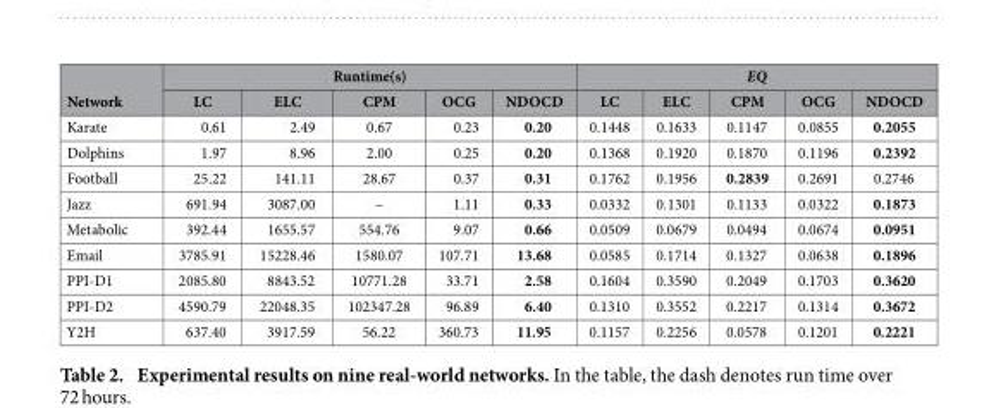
<table><thead><tr><td rowspan="2">Network</td><td colspan="5">Runtime(s)</td><td colspan="5">EQ</td></tr><tr><td>LC</td><td>ELC</td><td>CPM</td><td>OCG</td><td>NDOCD</td><td>LC</td><td>ELC</td><td>CPM</td><td>OCG</td><td>NDOCD</td></tr></thead><tbody><tr><td>Karate</td><td>0.61</td><td>2.49</td><td>0.67</td><td>0.23</td><td>0.20</td><td>0.1448</td><td>0.1633</td><td>0.1147</td><td>0.0855</td><td>0.2055</td></tr><tr><td>Dolphins</td><td>1.97</td><td>8.96</td><td>2.00</td><td>0.25</td><td>0.20</td><td>0.1368</td><td>0.1920</td><td>0.1870</td><td>0.1196</td><td>0.2392</td></tr><tr><td>Football</td><td>25.22</td><td>141.11</td><td>28.67</td><td>0.37</td><td>0.31</td><td>0.1762</td><td>0.1956</td><td>0.2839</td><td>0.2691</td><td>0.2746</td></tr><tr><td>Jazz</td><td>691.94</td><td>3087.00</td><td>–</td><td>1.11</td><td>0.33</td><td>0.0332</td><td>0.1301</td><td>0.1133</td><td>0.0322</td><td>0.1873</td></tr><tr><td>Metabolic</td><td>392.44</td><td>1655.57</td><td>554.76</td><td>9.07</td><td>0.66</td><td>0.0509</td><td>0.0679</td><td>0.0494</td><td>0.0674</td><td>0.0951</td></tr><tr><td>Email</td><td>3785.91</td><td>15228.46</td><td>1580.07</td><td>107.71</td><td>13.68</td><td>0.0585</td><td>0.1714</td><td>0.1327</td><td>0.0638</td><td>0.1896</td></tr><tr><td>PPI-D1</td><td>2085.80</td><td>8843.52</td><td>10771.28</td><td>33.71</td><td>2.58</td><td>0.1604</td><td>0.3590</td><td>0.2049</td><td>0.1703</td><td>0.3620</td></tr><tr><td>PPI-D2</td><td>4590.79</td><td>22048.35</td><td>102347.28</td><td>96.89</td><td>6.40</td><td>0.1310</td><td>0.3552</td><td>0.2217</td><td>0.1314</td><td>0.3672</td></tr><tr><td>Y2H</td><td>637.40</td><td>3917.59</td><td>56.22</td><td>360.73</td><td>11.95</td><td>0.1157</td><td>0.2256</td><td>0.0578</td><td>0.1201</td><td>0.2221</td></tr></tbody></table>